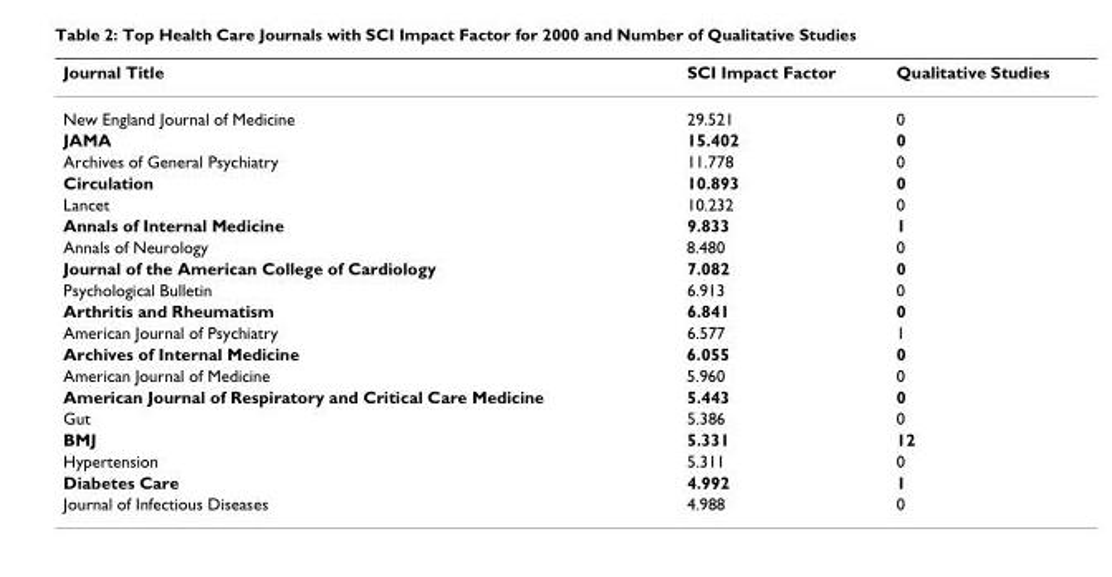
<table><thead><tr><td>Journal Title</td><td>SCI Impact Factor</td><td>Qualitative Studies</td></tr></thead><tbody><tr><td>New England Journal of Medicine</td><td>29.521</td><td>0</td></tr><tr><td>JAMA</td><td>15.402</td><td>0</td></tr><tr><td>Archives of General Psychiatry</td><td>11.778</td><td>0</td></tr><tr><td>Circulation</td><td>10.893</td><td>0</td></tr><tr><td>Lancet</td><td>10.232</td><td>0</td></tr><tr><td>Annals of Internal Medicine</td><td>9.833</td><td>1</td></tr><tr><td>Annals of Neurology</td><td>8.480</td><td>0</td></tr><tr><td>Journal of the American College of Cardiology</td><td>7.082</td><td>0</td></tr><tr><td>Psychological Bulletin</td><td>6.913</td><td>0</td></tr><tr><td>Arthritis and Rheumatism</td><td>6.841</td><td>0</td></tr><tr><td>American Journal of Psychiatry</td><td>6.577</td><td>1</td></tr><tr><td>Archives of Internal Medicine</td><td>6.055</td><td>0</td></tr><tr><td>American Journal of Medicine</td><td>5.960</td><td>0</td></tr><tr><td>American Journal of Respiratory and Critical Care Medicine</td><td>5.443</td><td>0</td></tr><tr><td>Gut</td><td>5.386</td><td>0</td></tr><tr><td>BMJ</td><td>5.331</td><td>12</td></tr><tr><td>Hypertension</td><td>5.311</td><td>0</td></tr><tr><td>Diabetes Care</td><td>4.992</td><td>1</td></tr><tr><td>Journal of Infectious Diseases</td><td>4.988</td><td>0</td></tr></tbody></table>